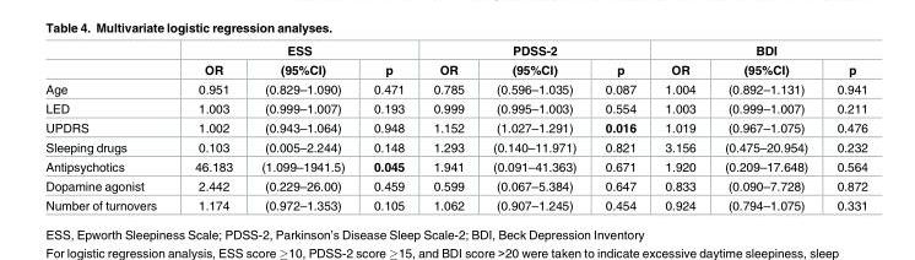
<table><thead><tr><td rowspan="2"></td><td colspan="3">ESS</td><td colspan="3">PDSS-2</td><td colspan="3">BDI</td></tr><tr><td>OR</td><td>(95%CI)</td><td>p</td><td>OR</td><td>(95%CI)</td><td>p</td><td>OR</td><td>(95%CI)</td><td>p</td></tr></thead><tbody><tr><td>Age</td><td>0.951</td><td>(0.829–1.090)</td><td>0.471</td><td>0.785</td><td>(0.596–1.035)</td><td>0.087</td><td>1.004</td><td>(0.892–1.131)</td><td>0.941</td></tr><tr><td>LED</td><td>1.003</td><td>(0.999–1.007)</td><td>0.193</td><td>0.999</td><td>(0.995–1.003)</td><td>0.554</td><td>1.003</td><td>(0.999–1.007)</td><td>0.211</td></tr><tr><td>UPDRS</td><td>1.002</td><td>(0.943–1.064)</td><td>0.948</td><td>1.152</td><td>(1.027–1.291)</td><td>0.016</td><td>1.019</td><td>(0.967–1.075)</td><td>0.476</td></tr><tr><td>Sleeping drugs</td><td>0.103</td><td>(0.005–2.244)</td><td>0.148</td><td>1.293</td><td>(0.140–11.971)</td><td>0.821</td><td>3.156</td><td>(0.475–20.954)</td><td>0.232</td></tr><tr><td>Antipsychotics</td><td>46.183</td><td>(1.099–1941.5)</td><td>0.045</td><td>1.941</td><td>(0.091–41.363)</td><td>0.671</td><td>1.920</td><td>(0.209–17.648)</td><td>0.564</td></tr><tr><td>Dopamine agonist</td><td>2.442</td><td>(0.229–26.00)</td><td>0.459</td><td>0.599</td><td>(0.067–5.384)</td><td>0.647</td><td>0.833</td><td>(0.090–7.728)</td><td>0.872</td></tr><tr><td>Number of turnovers</td><td>1.174</td><td>(0.972–1.353)</td><td>0.105</td><td>1.062</td><td>(0.907–1.245)</td><td>0.454</td><td>0.924</td><td>(0.794–1.075)</td><td>0.331</td></tr></tbody></table>